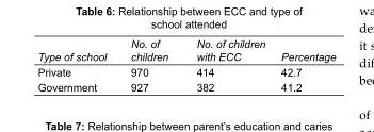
<table><tbody><tr><td>Type of school</td><td>No. of children</td><td>No. of children with ECC</td><td>Percentage</td></tr><tr><td>Private</td><td>970</td><td>414</td><td>42.7</td></tr><tr><td>Government</td><td>927</td><td>382</td><td>41.2</td></tr></tbody></table>